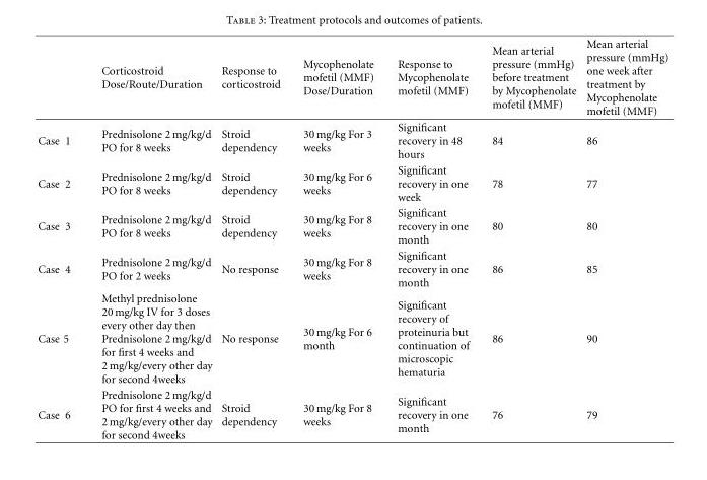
<table><thead><tr><td></td><td>Corticostroid Dose/Route/Duration</td><td>Response to corticostroid</td><td>Mycophenolate mofetil (MMF) Dose/Duration</td><td>Response to Mycophenolate mofetil (MMF)</td><td>Mean arterial pressure (mmHg) before treatment by Mycophenolate mofetil (MMF)</td><td>Mean arterial pressure (mmHg) one week after treatment by Mycophenolate mofetil (MMF)</td></tr></thead><tbody><tr><td>Case 1</td><td>Prednisolone 2 mg/kg/d PO for 8 weeks</td><td>Stroid dependency</td><td>30 mg/kg For 3 weeks</td><td>Significant recovery in 48 hours</td><td>84</td><td>86</td></tr><tr><td>Case 2</td><td>Prednisolone 2 mg/kg/d PO for 8 weeks</td><td>Stroid dependency</td><td>30 mg/kg For 6 weeks</td><td>Significant recovery in one week</td><td>78</td><td>77</td></tr><tr><td>Case 3</td><td>Prednisolone 2 mg/kg/d PO for 8 weeks</td><td>Stroid dependency</td><td>30 mg/kg For 8 weeks</td><td>Significant recovery in one month</td><td>80</td><td>80</td></tr><tr><td>Case 4</td><td>Prednisolone 2 mg/kg/d PO for 2 weeks</td><td>No response</td><td>30 mg/kg For 8 weeks</td><td>Significant recovery in one month</td><td>86</td><td>85</td></tr><tr><td>Case 5</td><td>Methyl prednisolone 20 mg/kg IV for 3 doses every other day then Prednisolone 2 mg/kg/d for first 4 weeks and 2 mg/kg/every other day for second 4weeks</td><td>No response</td><td>30 mg/kg For 6 month</td><td>Significant recovery of proteinuria but continuation of microscopic hematuria</td><td>86</td><td>90</td></tr><tr><td>Case 6</td><td>Prednisolone 2 mg/kg/d PO for first 4 weeks and 2 mg/kg/every other day for second 4weeks</td><td>Stroid dependency</td><td>30 mg/kg For 8 weeks</td><td>Significant recovery in one month</td><td>76</td><td>79</td></tr></tbody></table>